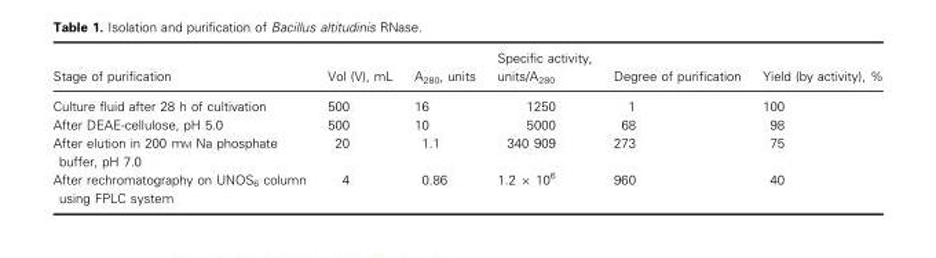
<table><thead><tr><td>Stage of purification</td><td>Vol (V), mL</td><td>A<sub>280</sub>, units</td><td>Specific activity, units/A<sub>280</sub></td><td>Degree of purification</td><td>Yield (by activity), %</td></tr></thead><tbody><tr><td>Culture fluid after 28 h of cultivation</td><td>500</td><td>16</td><td>1250</td><td>1</td><td>100</td></tr><tr><td>After DEAE-cellulose, pH 5.0</td><td>500</td><td>10</td><td>5000</td><td>68</td><td>98</td></tr><tr><td>After elution in 200 mM Na phosphate buffer, pH 7.0</td><td>20</td><td>1.1</td><td>340 909</td><td>273</td><td>75</td></tr><tr><td>After rechromatography on UNOS<sub>6</sub> column using FPLC system</td><td>4</td><td>0.86</td><td>1.2 × 10<sup>6</sup></td><td>960</td><td>40</td></tr></tbody></table>